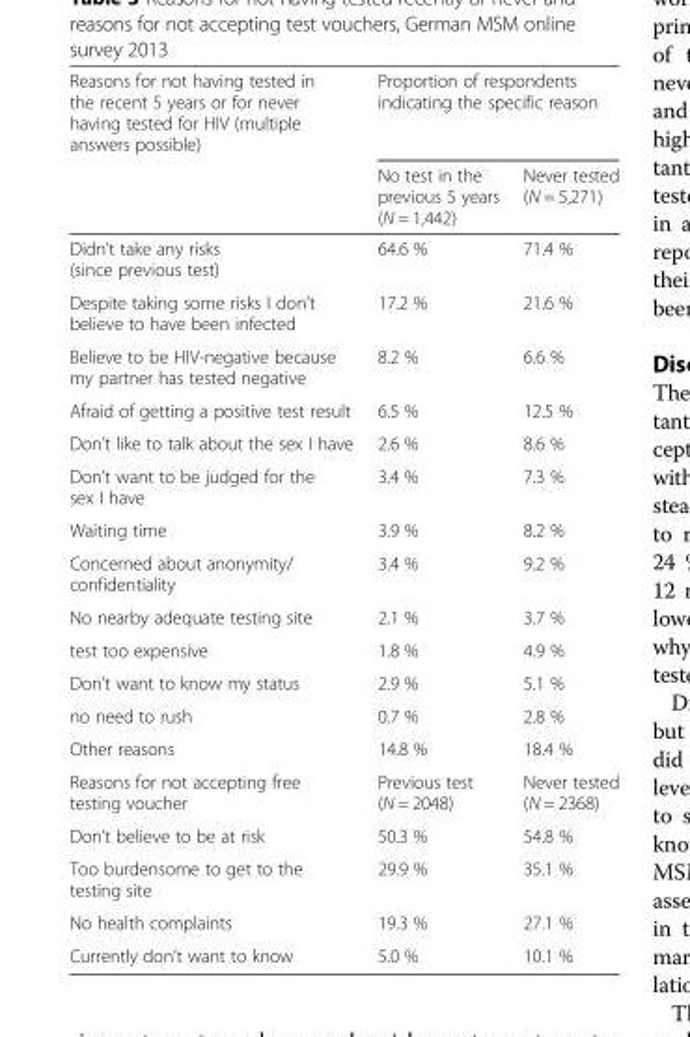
<table><thead><tr><td rowspan="2">Reasons for not having tested in the recent 5 years or for never having tested for HIV (multiple answers possible)</td><td colspan="2">Proportion of respondents indicating the specific reason</td></tr><tr><td>No test in the previous 5 years (N = 1,442)</td><td>Never tested (N = 5,271)</td></tr></thead><tbody><tr><td>Didn’t take any risks (since previous test)</td><td>64.6 %</td><td>71.4 %</td></tr><tr><td>Despite taking some risks I don’t believe to have been infected</td><td>17.2 %</td><td>21.6 %</td></tr><tr><td>Believe to be HIV-negative because my partner has tested negative</td><td>8.2 %</td><td>6.6 %</td></tr><tr><td>Afraid of getting a positive test result</td><td>6.5 %</td><td>12.5 %</td></tr><tr><td>Don’t like to talk about the sex I have</td><td>2.6 %</td><td>8.6 %</td></tr><tr><td>Don’t want to be judged for the sex I have</td><td>3.4 %</td><td>7.3 %</td></tr><tr><td>Waiting time</td><td>3.9 %</td><td>8.2 %</td></tr><tr><td>Concerned about anonymity/ confidentiality</td><td>3.4 %</td><td>9.2 %</td></tr><tr><td>No nearby adequate testing site</td><td>2.1 %</td><td>3.7 %</td></tr><tr><td>test too expensive</td><td>1.8 %</td><td>4.9 %</td></tr><tr><td>Don’t want to know my status</td><td>2.9 %</td><td>5.1 %</td></tr><tr><td>no need to rush</td><td>0.7 %</td><td>2.8 %</td></tr><tr><td>Other reasons</td><td>14.8 %</td><td>18.4 %</td></tr><tr><td>Reasons for not accepting free testing voucher</td><td>Previous test (N = 2048)</td><td>Never tested (N = 2368)</td></tr><tr><td>Don’t believe to be at risk</td><td>50.3 %</td><td>54.8 %</td></tr><tr><td>Too burdensome to get to the testing site</td><td>29.9 %</td><td>35.1 %</td></tr><tr><td>No health complaints</td><td>19.3 %</td><td>27.1 %</td></tr><tr><td>Currently don’t want to know</td><td>5.0 %</td><td>10.1 %</td></tr></tbody></table>